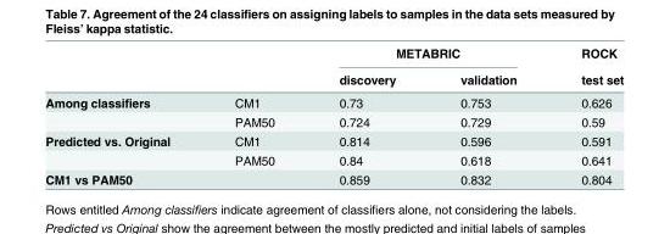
<table><thead><tr><td rowspan="2"></td><td rowspan="2"></td><td colspan="2">METABRIC</td><td rowspan="2">ROCK test set</td></tr><tr><td>discovery</td><td>validation</td></tr></thead><tbody><tr><td rowspan="2">Among classifiers</td><td>CM1</td><td>0.73</td><td>0.753</td><td>0.626</td></tr><tr><td>PAM50</td><td>0.724</td><td>0.729</td><td>0.59</td></tr><tr><td rowspan="2">Predicted vs. Original</td><td>CM1</td><td>0.814</td><td>0.596</td><td>0.591</td></tr><tr><td>PAM50</td><td>0.84</td><td>0.618</td><td>0.641</td></tr><tr><td>CM1 vs PAM50</td><td></td><td>0.859</td><td>0.832</td><td>0.804</td></tr></tbody></table>